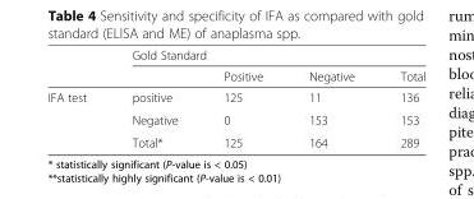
<table><thead><tr><td rowspan="2"></td><td colspan="4">Gold Standard</td></tr><tr><td></td><td>Positive</td><td>Negative</td><td>Total</td></tr></thead><tbody><tr><td rowspan="3">IFA test</td><td>positive</td><td>125</td><td>11</td><td>136</td></tr><tr><td>Negative</td><td>0</td><td>153</td><td>153</td></tr><tr><td>Total*</td><td>125</td><td>164</td><td>289</td></tr></tbody></table>